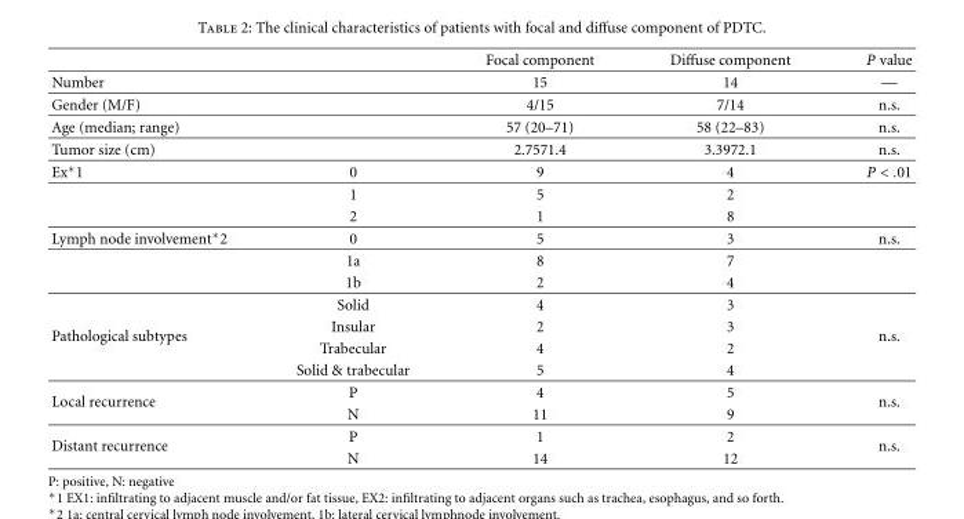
<table><thead><tr><td></td><td></td><td>Focal component</td><td>Diffuse component</td><td>P value</td></tr></thead><tbody><tr><td>Number</td><td></td><td>15</td><td>14</td><td>—</td></tr><tr><td>Gender (M/F)</td><td></td><td>4/15</td><td>7/14</td><td>n.s.</td></tr><tr><td>Age (median; range)</td><td></td><td>57 (20–71)</td><td>58 (22–83)</td><td>n.s.</td></tr><tr><td>Tumor size (cm)</td><td></td><td>2.7571.4</td><td>3.3972.1</td><td>n.s.</td></tr><tr><td rowspan="3">Ex∗1</td><td>0</td><td>9</td><td>4</td><td>P &lt; .01</td></tr><tr><td>1</td><td>5</td><td>2</td><td></td></tr><tr><td>2</td><td>1</td><td>8</td><td></td></tr><tr><td rowspan="3">Lymph node involvement∗2</td><td>0</td><td>5</td><td>3</td><td>n.s.</td></tr><tr><td>1a</td><td>8</td><td>7</td><td></td></tr><tr><td>1b</td><td>2</td><td>4</td><td></td></tr><tr><td rowspan="4">Pathological subtypes</td><td>Solid</td><td>4</td><td>3</td><td rowspan="4">n.s.</td></tr><tr><td>Insular</td><td>2</td><td>3</td></tr><tr><td>Trabecular</td><td>4</td><td>2</td></tr><tr><td>Solid &amp; trabecular</td><td>5</td><td>4</td></tr><tr><td rowspan="2">Local recurrence</td><td>P</td><td>4</td><td>5</td><td rowspan="2">n.s.</td></tr><tr><td>N</td><td>11</td><td>9</td></tr><tr><td rowspan="2">Distant recurrence</td><td>P</td><td>1</td><td>2</td><td rowspan="2">n.s.</td></tr><tr><td>N</td><td>14</td><td>12</td></tr></tbody></table>